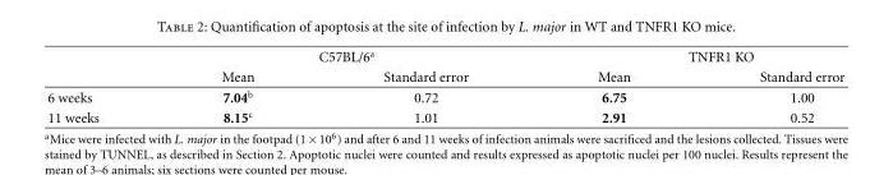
<table><thead><tr><td rowspan="2"></td><td colspan="2">C57BL/6<sup>a</sup></td><td colspan="2">TNFR1 KO</td></tr><tr><td>Mean</td><td>Standard error</td><td>Mean</td><td>Standard error</td></tr></thead><tbody><tr><td>6 weeks</td><td>7.04<sup>b</sup></td><td>0.72</td><td>6.75</td><td>1.00</td></tr><tr><td>11 weeks</td><td>8.15<sup>c</sup></td><td>1.01</td><td>2.91</td><td>0.52</td></tr></tbody></table>